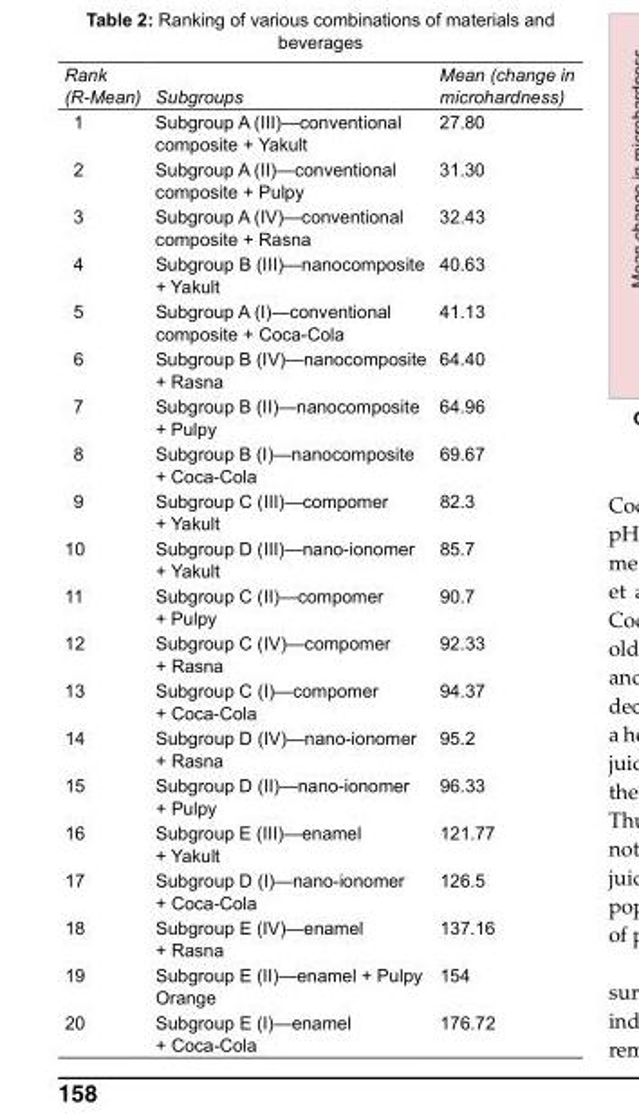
<table><tbody><tr><td>Rank (R-Mean)</td><td>Subgroups</td><td>Mean (change in microhardness)</td></tr><tr><td>1</td><td>Subgroup A (III)—conventional composite + Yakult</td><td>27.80</td></tr><tr><td>2</td><td>Subgroup A (II)—conventional composite + Pulpy</td><td>31.30</td></tr><tr><td>3</td><td>Subgroup A (IV)—conventional composite + Rasna</td><td>32.43</td></tr><tr><td>4</td><td>Subgroup B (III)—nanocomposite + Yakult</td><td>40.63</td></tr><tr><td>5</td><td>Subgroup A (I)—conventional composite + Coca-Cola</td><td>41.13</td></tr><tr><td>6</td><td>Subgroup B (IV)—nanocomposite + Rasna</td><td>64.40</td></tr><tr><td>7</td><td>Subgroup B (II)—nanocomposite + Pulpy</td><td>64.96</td></tr><tr><td>8</td><td>Subgroup B (I)—nanocomposite + Coca-Cola</td><td>69.67</td></tr><tr><td>9</td><td>Subgroup C (III)—compomer + Yakult</td><td>82.3</td></tr><tr><td>10</td><td>Subgroup D (III)—nano-ionomer + Yakult</td><td>85.7</td></tr><tr><td>11</td><td>Subgroup C (II)—compomer + Pulpy</td><td>90.7</td></tr><tr><td>12</td><td>Subgroup C (IV)—compomer + Rasna</td><td>92.33</td></tr><tr><td>13</td><td>Subgroup C (I)—compomer + Coca-Cola</td><td>94.37</td></tr><tr><td>14</td><td>Subgroup D (IV)—nano-ionomer + Rasna</td><td>95.2</td></tr><tr><td>15</td><td>Subgroup D (II)—nano-ionomer + Pulpy</td><td>96.33</td></tr><tr><td>16</td><td>Subgroup E (III)—enamel + Yakult</td><td>121.77</td></tr><tr><td>17</td><td>Subgroup D (I)—nano-ionomer + Coca-Cola</td><td>126.5</td></tr><tr><td>18</td><td>Subgroup E (IV)—enamel + Rasna</td><td>137.16</td></tr><tr><td>19</td><td>Subgroup E (II)—enamel + Pulpy Orange</td><td>154</td></tr><tr><td>20</td><td>Subgroup E (I)—enamel + Coca-Cola</td><td>176.72</td></tr></tbody></table>